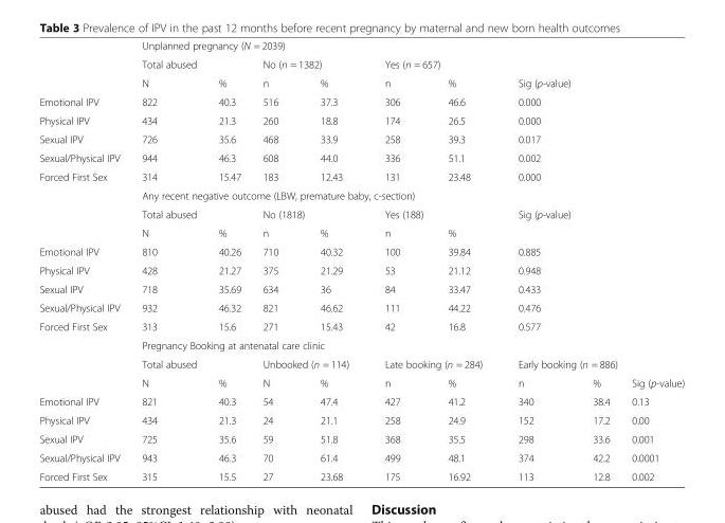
<table><thead><tr><td rowspan="3"></td><td colspan="9">Unplanned pregnancy (N = 2039)</td></tr><tr><td colspan="2">Total abused</td><td colspan="2">No (n = 1382)</td><td colspan="2">Yes (n = 657)</td><td rowspan="2">Sig (p-value)</td><td rowspan="2"></td><td rowspan="2"></td></tr><tr><td>N</td><td>%</td><td>n</td><td>%</td><td>n</td><td>%</td></tr></thead><tbody><tr><td>Emotional IPV</td><td>822</td><td>40.3</td><td>516</td><td>37.3</td><td>306</td><td>46.6</td><td>0.000</td><td></td><td></td></tr><tr><td>Physical IPV</td><td>434</td><td>21.3</td><td>260</td><td>18.8</td><td>174</td><td>26.5</td><td>0.000</td><td></td><td></td></tr><tr><td>Sexual IPV</td><td>726</td><td>35.6</td><td>468</td><td>33.9</td><td>258</td><td>39.3</td><td>0.017</td><td></td><td></td></tr><tr><td>Sexual/Physical IPV</td><td>944</td><td>46.3</td><td>608</td><td>44.0</td><td>336</td><td>51.1</td><td>0.002</td><td></td><td></td></tr><tr><td rowspan="4">Forced First Sex</td><td>314</td><td>15.47</td><td>183</td><td>12.43</td><td>131</td><td>23.48</td><td>0.000</td><td></td><td></td></tr><tr><td colspan="9">Any recent negative outcome (LBW, premature baby, c-section)</td></tr><tr><td colspan="2">Total abused</td><td colspan="2">No (1818)</td><td colspan="2">Yes (188)</td><td>Sig (p-value)</td><td></td><td></td></tr><tr><td>N</td><td>%</td><td>n</td><td>%</td><td>n</td><td>%</td><td></td><td></td><td></td></tr><tr><td>Emotional IPV</td><td>810</td><td>40.26</td><td>710</td><td>40.32</td><td>100</td><td>39.84</td><td>0.885</td><td></td><td></td></tr><tr><td>Physical IPV</td><td>428</td><td>21.27</td><td>375</td><td>21.29</td><td>53</td><td>21.12</td><td>0.948</td><td></td><td></td></tr><tr><td>Sexual IPV</td><td>718</td><td>35.69</td><td>634</td><td>36</td><td>84</td><td>33.47</td><td>0.433</td><td></td><td></td></tr><tr><td>Sexual/Physical IPV</td><td>932</td><td>46.32</td><td>821</td><td>46.62</td><td>111</td><td>44.22</td><td>0.476</td><td></td><td></td></tr><tr><td rowspan="4">Forced First Sex</td><td>313</td><td>15.6</td><td>271</td><td>15.43</td><td>42</td><td>16.8</td><td>0.577</td><td></td><td></td></tr><tr><td colspan="9">Pregnancy Booking at antenatal care clinic</td></tr><tr><td>Total abused</td><td></td><td colspan="2">Unbooked (n = 114)</td><td colspan="2">Late booking (n = 284)</td><td colspan="3">Early booking (n = 886)</td></tr><tr><td>N</td><td>%</td><td>N</td><td>%</td><td>n</td><td>%</td><td>n</td><td>%</td><td>Sig (p-value)</td></tr><tr><td>Emotional IPV</td><td>821</td><td>40.3</td><td>54</td><td>47.4</td><td>427</td><td>41.2</td><td>340</td><td>38.4</td><td>0.13</td></tr><tr><td>Physical IPV</td><td>434</td><td>21.3</td><td>24</td><td>21.1</td><td>258</td><td>24.9</td><td>152</td><td>17.2</td><td>0.00</td></tr><tr><td>Sexual IPV</td><td>725</td><td>35.6</td><td>59</td><td>51.8</td><td>368</td><td>35.5</td><td>298</td><td>33.6</td><td>0.001</td></tr><tr><td>Sexual/Physical IPV</td><td>943</td><td>46.3</td><td>70</td><td>61.4</td><td>499</td><td>48.1</td><td>374</td><td>42.2</td><td>0.0001</td></tr><tr><td>Forced First Sex</td><td>315</td><td>15.5</td><td>27</td><td>23.68</td><td>175</td><td>16.92</td><td>113</td><td>12.8</td><td>0.002</td></tr></tbody></table>